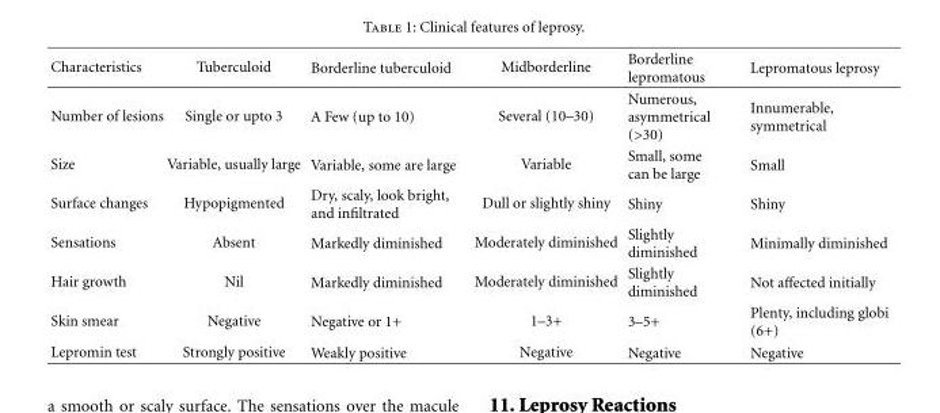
<table><thead><tr><td>Characteristics</td><td>Tuberculoid</td><td>Borderline tuberculoid</td><td>Midborderline</td><td>Borderline lepromatous</td><td>Lepromatous leprosy</td></tr></thead><tbody><tr><td>Number of lesions</td><td>Single or upto 3</td><td>A Few (up to 10)</td><td>Several (10–30)</td><td>Numerous, asymmetrical (&gt;30)</td><td>Innumerable, symmetrical</td></tr><tr><td>Size</td><td>Variable, usually large</td><td>Variable, some are large</td><td>Variable</td><td>Small, some can be large</td><td>Small</td></tr><tr><td>Surface changes</td><td>Hypopigmented</td><td>Dry, scaly, look bright, and infiltrated</td><td>Dull or slightly shiny</td><td>Shiny</td><td>Shiny</td></tr><tr><td>Sensations</td><td>Absent</td><td>Markedly diminished</td><td>Moderately diminished</td><td>Slightly diminished</td><td>Minimally diminished</td></tr><tr><td>Hair growth</td><td>Nil</td><td>Markedly diminished</td><td>Moderately diminished</td><td>Slightly diminished</td><td>Not affected initially</td></tr><tr><td>Skin smear</td><td>Negative</td><td>Negative or 1+</td><td>1–3+</td><td>3–5+</td><td>Plenty, including globi (6+)</td></tr><tr><td>Lepromin test</td><td>Strongly positive</td><td>Weakly positive</td><td>Negative</td><td>Negative</td><td>Negative</td></tr></tbody></table>